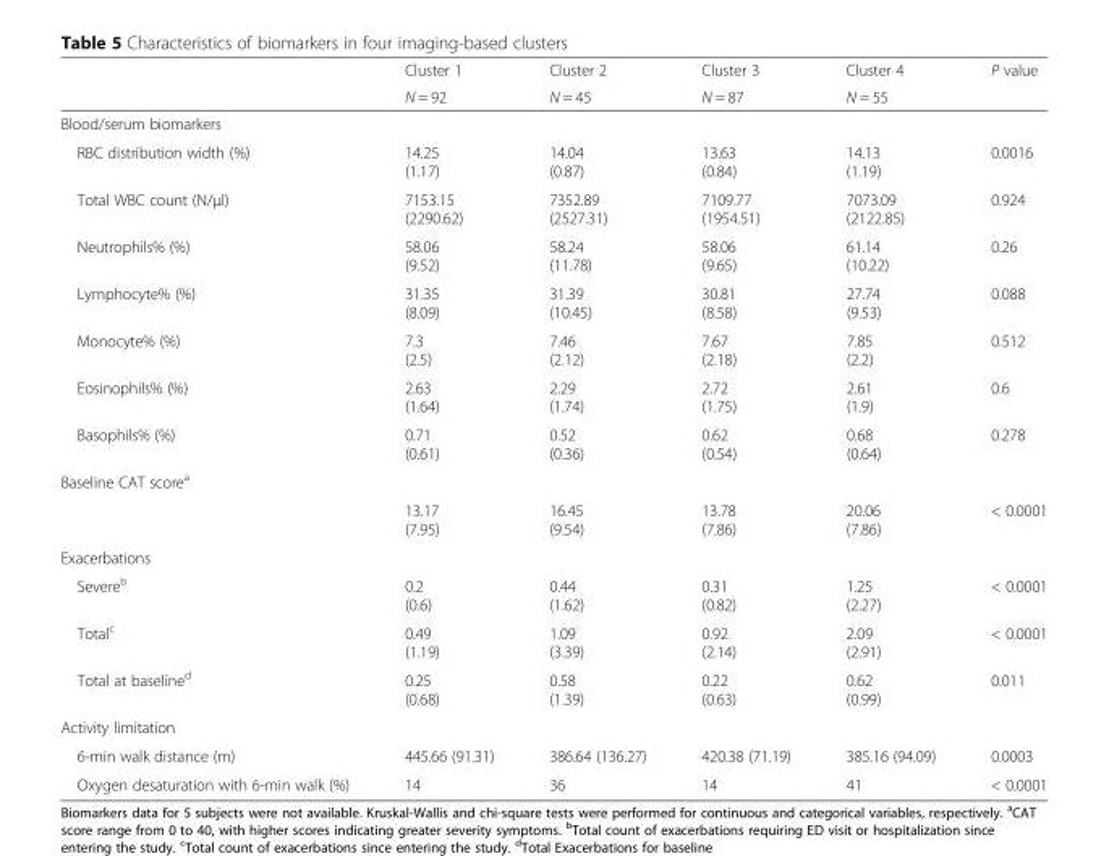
<table><thead><tr><td rowspan="2"></td><td rowspan="2">Cluster 1 N = 92</td><td rowspan="2">Cluster 2 N = 45</td><td rowspan="2">Cluster 3 N = 87</td><td rowspan="2">Cluster 4 N = 55</td><td rowspan="2">P value</td></tr><tr></tr></thead><tbody><tr><td colspan="6">Blood/serum biomarkers</td></tr><tr><td>RBC distribution width (%)</td><td>14.25 (1.17)</td><td>14.04 (0.87)</td><td>13.63 (0.84)</td><td>14.13 (1.19)</td><td>0.0016</td></tr><tr><td>Total WBC count (N/μl)</td><td>7153.15 (2290.62)</td><td>7352.89 (2527.31)</td><td>7109.77 (1954.51)</td><td>7073.09 (2122.85)</td><td>0.924</td></tr><tr><td>Neutrophils% (%)</td><td>58.06 (9.52)</td><td>58.24 (11.78)</td><td>58.06 (9.65)</td><td>61.14 (10.22)</td><td>0.26</td></tr><tr><td>Lymphocyte% (%)</td><td>31.35 (8.09)</td><td>31.39 (10.45)</td><td>30.81 (8.58)</td><td>27.74 (9.53)</td><td>0.088</td></tr><tr><td>Monocyte% (%)</td><td>7.3 (2.5)</td><td>7.46 (2.12)</td><td>7.67 (2.18)</td><td>7.85 (2.2)</td><td>0.512</td></tr><tr><td>Eosinophils% (%)</td><td>2.63 (1.64)</td><td>2.29 (1.74)</td><td>2.72 (1.75)</td><td>2.61 (1.9)</td><td>0.6</td></tr><tr><td>Basophils% (%)</td><td>0.71 (0.61)</td><td>0.52 (0.36)</td><td>0.62 (0.54)</td><td>0.68 (0.64)</td><td>0.278</td></tr><tr><td colspan="6">Baseline CAT score<sup>a</sup></td></tr><tr><td></td><td>13.17 (7.95)</td><td>16.45 (9.54)</td><td>13.78 (7.86)</td><td>20.06 (7.86)</td><td>&lt; 0.0001</td></tr><tr><td colspan="6">Exacerbations</td></tr><tr><td>Severe<sup>b</sup></td><td>0.2 (0.6)</td><td>0.44 (1.62)</td><td>0.31 (0.82)</td><td>1.25 (2.27)</td><td>&lt; 0.0001</td></tr><tr><td>Total<sup>c</sup></td><td>0.49 (1.19)</td><td>1.09 (3.39)</td><td>0.92 (2.14)</td><td>2.09 (2.91)</td><td>&lt; 0.0001</td></tr><tr><td>Total at baseline<sup>d</sup></td><td>0.25 (0.68)</td><td>0.58 (1.39)</td><td>0.22 (0.63)</td><td>0.62 (0.99)</td><td>0.011</td></tr><tr><td colspan="6">Activity limitation</td></tr><tr><td>6-min walk distance (m)</td><td>445.66 (91.31)</td><td>386.64 (136.27)</td><td>420.38 (71.19)</td><td>385.16 (94.09)</td><td>0.0003</td></tr><tr><td>Oxygen desaturation with 6-min walk (%)</td><td>14</td><td>36</td><td>14</td><td>41</td><td>&lt; 0.0001</td></tr></tbody></table>